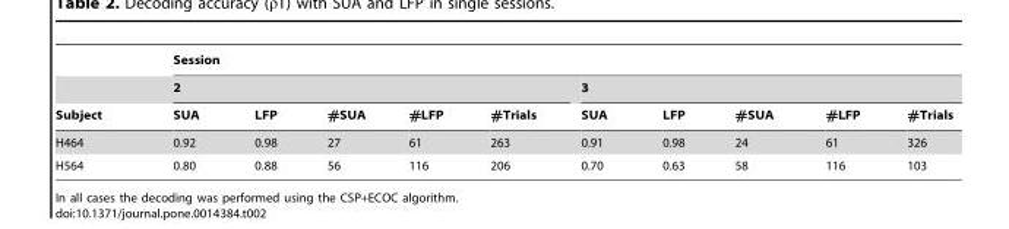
<table><thead><tr><td rowspan="3">Subject</td><td colspan="10">Session</td></tr><tr><td colspan="5">2</td><td colspan="5">3</td></tr><tr><td>SUA</td><td>LFP</td><td>#SUA</td><td>#LFP</td><td>#Trials</td><td>SUA</td><td>LFP</td><td>#SUA</td><td>#LFP</td><td>#Trials</td></tr></thead><tbody><tr><td>H464</td><td>0.92</td><td>0.98</td><td>27</td><td>61</td><td>263</td><td>0.91</td><td>0.98</td><td>24</td><td>61</td><td>326</td></tr><tr><td>H564</td><td>0.80</td><td>0.88</td><td>56</td><td>116</td><td>206</td><td>0.70</td><td>0.63</td><td>58</td><td>116</td><td>103</td></tr></tbody></table>